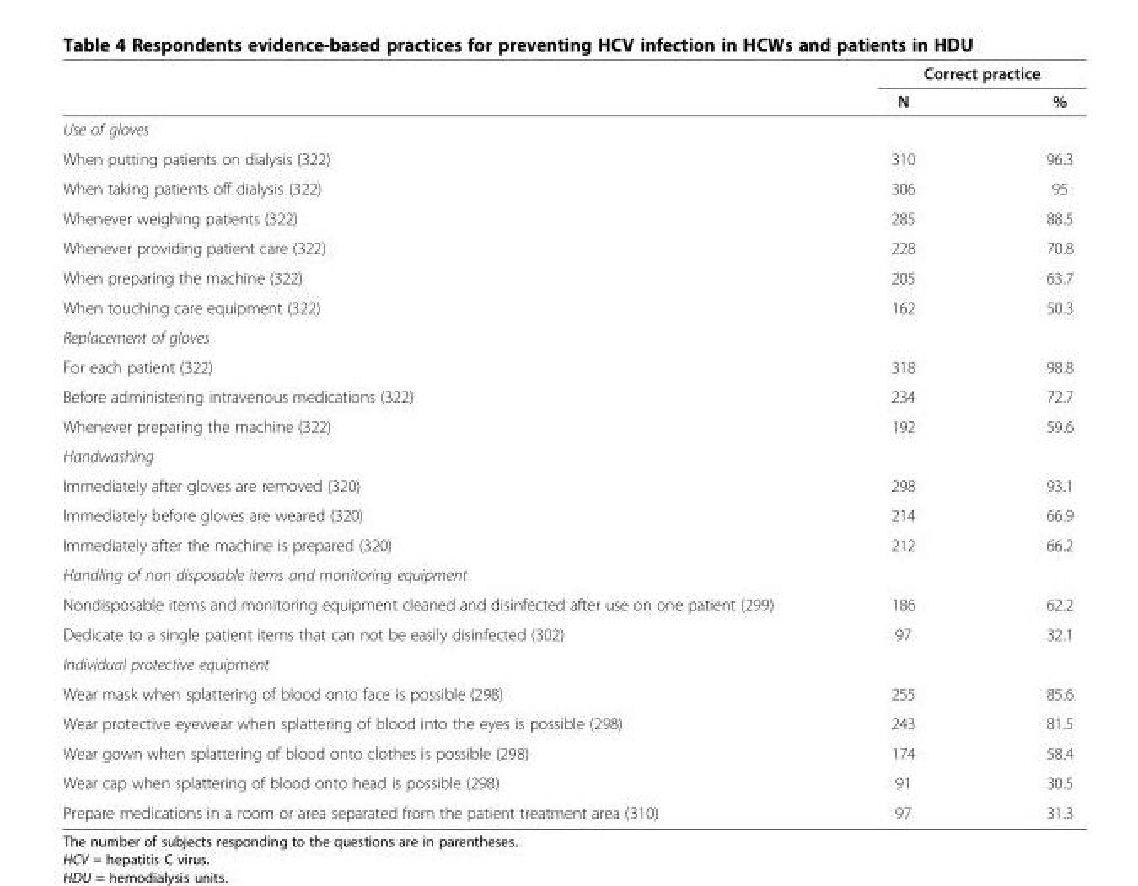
<table><thead><tr><td rowspan="2"></td><td colspan="2">Correct practice</td></tr><tr><td>N</td><td>%</td></tr></thead><tbody><tr><td colspan="3">Use of gloves</td></tr><tr><td>When putting patients on dialysis (322)</td><td>310</td><td>96.3</td></tr><tr><td>When taking patients off dialysis (322)</td><td>306</td><td>95</td></tr><tr><td>Whenever weighing patients (322)</td><td>285</td><td>88.5</td></tr><tr><td>Whenever providing patient care (322)</td><td>228</td><td>70.8</td></tr><tr><td>When preparing the machine (322)</td><td>205</td><td>63.7</td></tr><tr><td>When touching care equipment (322)</td><td>162</td><td>50.3</td></tr><tr><td colspan="3">Replacement of gloves</td></tr><tr><td>For each patient (322)</td><td>318</td><td>98.8</td></tr><tr><td>Before administering intravenous medications (322)</td><td>234</td><td>72.7</td></tr><tr><td>Whenever preparing the machine (322)</td><td>192</td><td>59.6</td></tr><tr><td colspan="3">Handwashing</td></tr><tr><td>Immediately after gloves are removed (320)</td><td>298</td><td>93.1</td></tr><tr><td>Immediately before gloves are weared (320)</td><td>214</td><td>66.9</td></tr><tr><td>Immediately after the machine is prepared (320)</td><td>212</td><td>66.2</td></tr><tr><td colspan="3">Handling of non disposable items and monitoring equipment</td></tr><tr><td>Nondisposable items and monitoring equipment cleaned and disinfected after use on one patient (299)</td><td>186</td><td>62.2</td></tr><tr><td>Dedicate to a single patient items that can not be easily disinfected (302)</td><td>97</td><td>32.1</td></tr><tr><td colspan="3">Individual protective equipment</td></tr><tr><td>Wear mask when splattering of blood onto face is possible (298)</td><td>255</td><td>85.6</td></tr><tr><td>Wear protective eyewear when splattering of blood into the eyes is possible (298)</td><td>243</td><td>81.5</td></tr><tr><td>Wear gown when splattering of blood onto clothes is possible (298)</td><td>174</td><td>58.4</td></tr><tr><td>Wear cap when splattering of blood onto head is possible (298)</td><td>91</td><td>30.5</td></tr><tr><td>Prepare medications in a room or area separated from the patient treatment area (310)</td><td>97</td><td>31.3</td></tr></tbody></table>